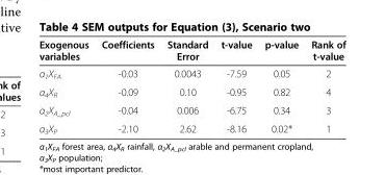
<table><thead><tr><td>Exogenous variables</td><td>Coefficients</td><td>Standard Error</td><td>t-value</td><td>p-value</td><td>Rank of t-value</td></tr></thead><tbody><tr><td>α<sub>1</sub>X<sub>FA</sub></td><td>-0.03</td><td>0.0043</td><td>-7.59</td><td>0.05</td><td>2</td></tr><tr><td>α<sub>4</sub>X<sub>R</sub></td><td>-0.09</td><td>0.10</td><td>-0.95</td><td>0.82</td><td>4</td></tr><tr><td>α<sub>2</sub>X<sub>A_pcl</sub></td><td>-0.04</td><td>0.006</td><td>-6.75</td><td>0.34</td><td>3</td></tr><tr><td>α<sub>3</sub>X<sub>P</sub></td><td>-2.10</td><td>2.62</td><td>-8.16</td><td>0.02*</td><td>1</td></tr></tbody></table>